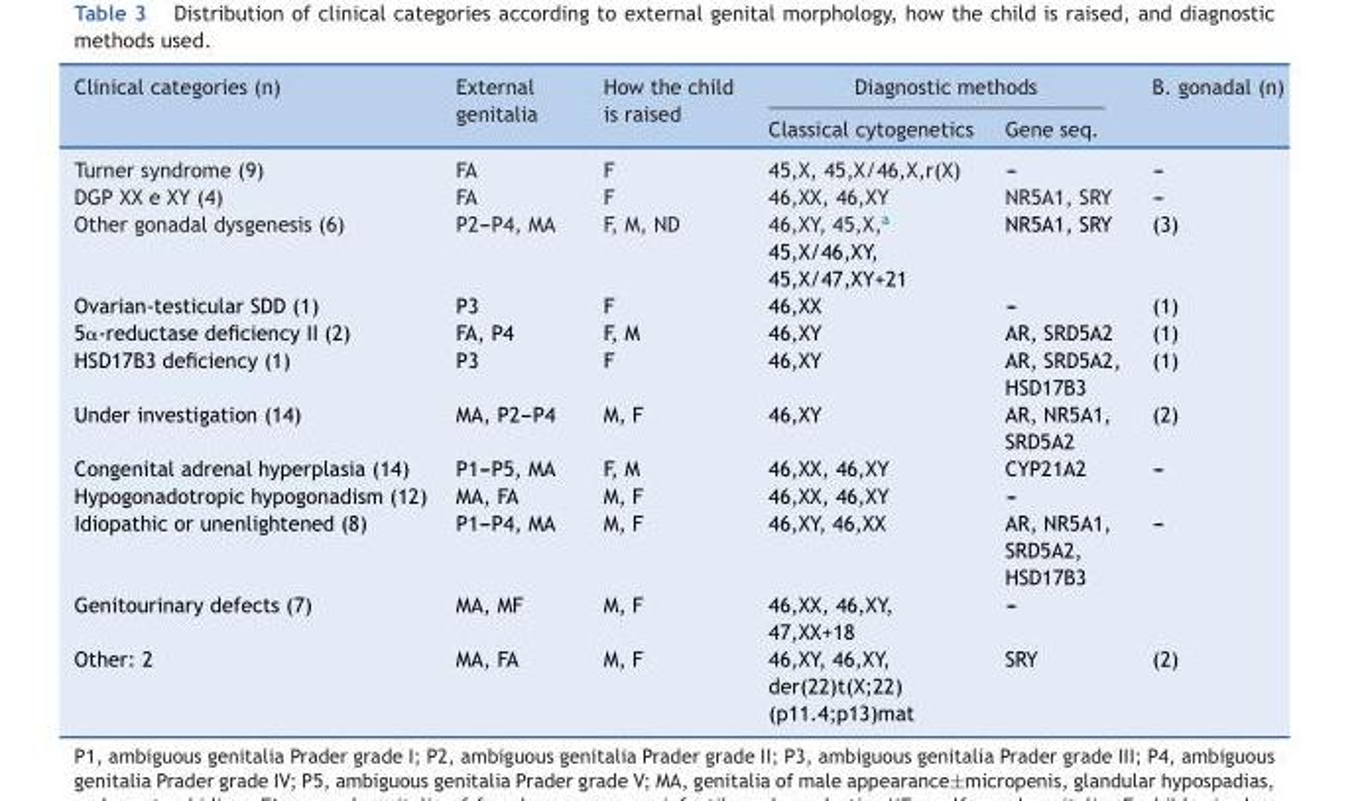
<table><thead><tr><td rowspan="2">Clinical categories (n)</td><td rowspan="2">External genitalia</td><td rowspan="2">How the child is raised</td><td colspan="2">Diagnostic methods</td><td rowspan="2">B. gonadal (n)</td></tr><tr><td>Classical cytogenetics</td><td>Gene seq.</td></tr></thead><tbody><tr><td>Turner syndrome (9)</td><td>FA</td><td>F</td><td>45,X, 45,X/46,X,r(X)</td><td>---</td><td>---</td></tr><tr><td>DGP XX e XY (4)</td><td>FA</td><td>F</td><td>46,XX, 46,XY</td><td>NR5A1, SRY</td><td>---</td></tr><tr><td>Other gonadal dysgenesis (6)</td><td>P2---P4, MA</td><td>F, M, ND</td><td>46,XY, 45,X,a 45,X/46,XY, 45,X/47,XY+21</td><td>NR5A1, SRY</td><td>(3)</td></tr><tr><td>Ovarian-testicular SDD (1)</td><td>P3</td><td>F</td><td>46,XX</td><td>---</td><td>(1)</td></tr><tr><td>5α-reductase deficiency II (2)</td><td>FA, P4</td><td>F, M</td><td>46,XY</td><td>AR, SRD5A2</td><td>(1)</td></tr><tr><td>HSD17B3 deficiency (1)</td><td>P3</td><td>F</td><td>46,XY</td><td>AR, SRD5A2, HSD17B3</td><td>(1)</td></tr><tr><td>Under investigation (14)</td><td>MA, P2---P4</td><td>M, F</td><td>46,XY</td><td>AR, NR5A1, SRD5A2</td><td>(2)</td></tr><tr><td>Congenital adrenal hyperplasia (14)</td><td>P1---P5, MA</td><td>F, M</td><td>46,XX, 46,XY</td><td>CYP21A2</td><td>---</td></tr><tr><td>Hypogonadotropic hypogonadism (12)</td><td>MA, FA</td><td>M, F</td><td>46,XX, 46,XY</td><td>---</td><td></td></tr><tr><td>Idiopathic or unenlightened (8)</td><td>P1---P4, MA</td><td>M, F</td><td>46,XY, 46,XX</td><td>AR, NR5A1, SRD5A2, HSD17B3</td><td>---</td></tr><tr><td>Genitourinary defects (7)</td><td>MA, MF</td><td>M, F</td><td>46,XX, 46,XY, 47,XX+18</td><td>---</td><td></td></tr><tr><td>Other: 2</td><td>MA, FA</td><td>M, F</td><td>46,XY, 46,XY, der(22)t(X;22) (p11.4;p13)mat</td><td>SRY</td><td>(2)</td></tr></tbody></table>